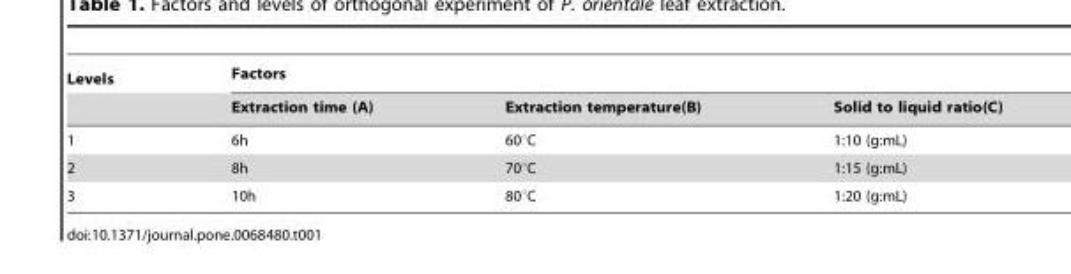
<table><thead><tr><td rowspan="2">Levels</td><td colspan="3">Factors</td></tr><tr><td>Extraction time (A)</td><td>Extraction temperature(B)</td><td>Solid to liquid ratio(C)</td></tr></thead><tbody><tr><td>1</td><td>6h</td><td>60°C</td><td>1:10 (g:mL)</td></tr><tr><td>2</td><td>8h</td><td>70°C</td><td>1:15 (g:mL)</td></tr><tr><td>3</td><td>10h</td><td>80°C</td><td>1:20 (g:mL)</td></tr></tbody></table>